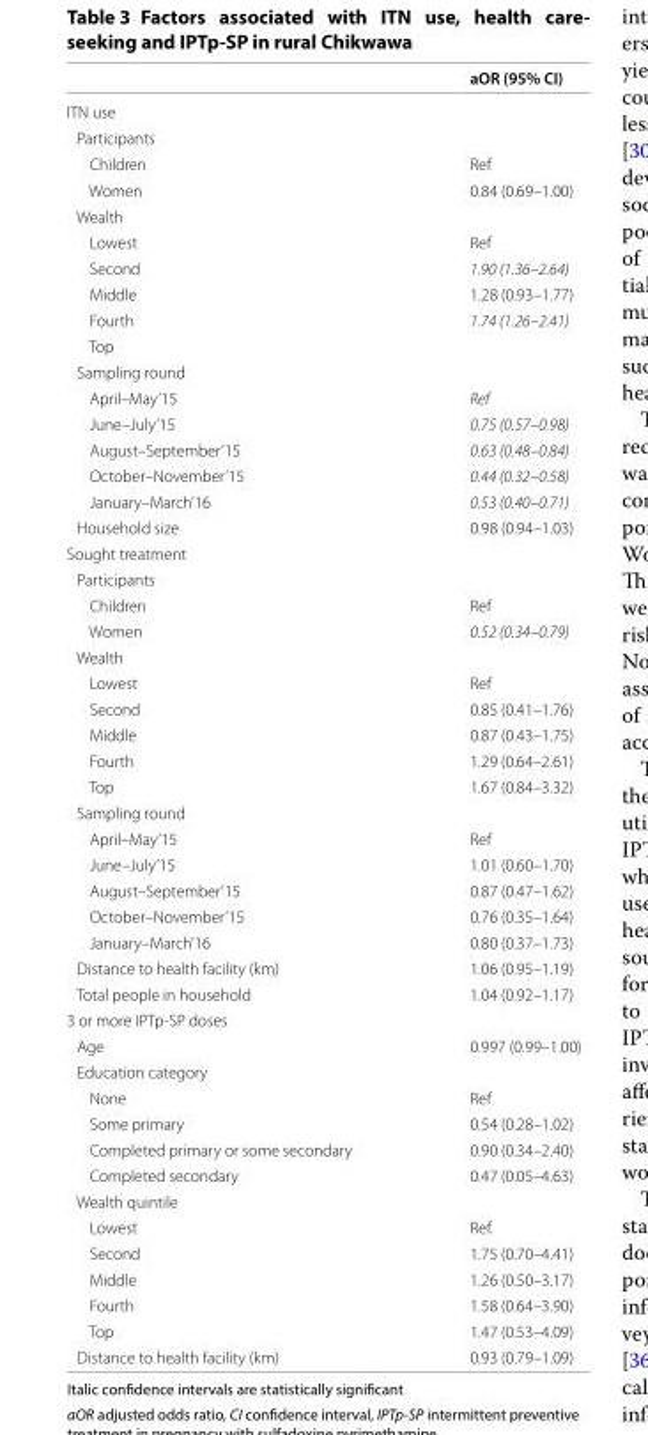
<table><thead><tr><td></td><td>aOR (95% CI)</td></tr></thead><tbody><tr><td colspan="2">ITN use</td></tr><tr><td colspan="2">Participants</td></tr><tr><td>Children</td><td>Ref</td></tr><tr><td>Women</td><td>0.84 (0.69–1.00)</td></tr><tr><td colspan="2">Wealth</td></tr><tr><td>Lowest</td><td>Ref</td></tr><tr><td>Second</td><td>1.90 (1.36–2.64)</td></tr><tr><td>Middle</td><td>1.28 (0.93–1.77)</td></tr><tr><td>Fourth</td><td>1.74 (1.26–2.41)</td></tr><tr><td colspan="2">Top</td></tr><tr><td colspan="2">Sampling round</td></tr><tr><td>April–May’15</td><td>Ref</td></tr><tr><td>June–July’15</td><td>0.75 (0.57–0.98)</td></tr><tr><td>August–September’15</td><td>0.63 (0.48–0.84)</td></tr><tr><td>October–November’15</td><td>0.44 (0.32–0.58)</td></tr><tr><td>January–March’16</td><td>0.53 (0.40–0.71)</td></tr><tr><td>Household size</td><td>0.98 (0.94–1.03)</td></tr><tr><td colspan="2">Sought treatment</td></tr><tr><td colspan="2">Participants</td></tr><tr><td>Children</td><td>Ref</td></tr><tr><td>Women</td><td>0.52 (0.34–0.79)</td></tr><tr><td colspan="2">Wealth</td></tr><tr><td>Lowest</td><td>Ref</td></tr><tr><td>Second</td><td>0.85 (0.41–1.76)</td></tr><tr><td>Middle</td><td>0.87 (0.43–1.75)</td></tr><tr><td>Fourth</td><td>1.29 (0.64–2.61)</td></tr><tr><td>Top</td><td>1.67 (0.84–3.32)</td></tr><tr><td colspan="2">Sampling round</td></tr><tr><td>April–May’15</td><td>Ref</td></tr><tr><td>June–July’15</td><td>1.01 (0.60–1.70)</td></tr><tr><td>August–September’15</td><td>0.87 (0.47–1.62)</td></tr><tr><td>October–November’15</td><td>0.76 (0.35–1.64)</td></tr><tr><td>January–March’16</td><td>0.80 (0.37–1.73)</td></tr><tr><td>Distance to health facility (km)</td><td>1.06 (0.95–1.19)</td></tr><tr><td>Total people in household</td><td>1.04 (0.92–1.17)</td></tr><tr><td colspan="2">3 or more IPTp-SP doses</td></tr><tr><td>Age</td><td>0.997 (0.99–1.00)</td></tr><tr><td colspan="2">Education category</td></tr><tr><td>None</td><td>Ref</td></tr><tr><td>Some primary</td><td>0.54 (0.28–1.02)</td></tr><tr><td>Completed primary or some secondary</td><td>0.90 (0.34–2.40)</td></tr><tr><td>Completed secondary</td><td>0.47 (0.05–4.63)</td></tr><tr><td colspan="2">Wealth quintile</td></tr><tr><td>Lowest</td><td>Ref.</td></tr><tr><td>Second</td><td>1.75 (0.70–4.41)</td></tr><tr><td>Middle</td><td>1.26 (0.50–3.17)</td></tr><tr><td>Fourth</td><td>1.58 (0.64–3.90)</td></tr><tr><td>Top</td><td>1.47 (0.53–4.09)</td></tr><tr><td>Distance to health facility (km)</td><td>0.93 (0.79–1.09)</td></tr></tbody></table>